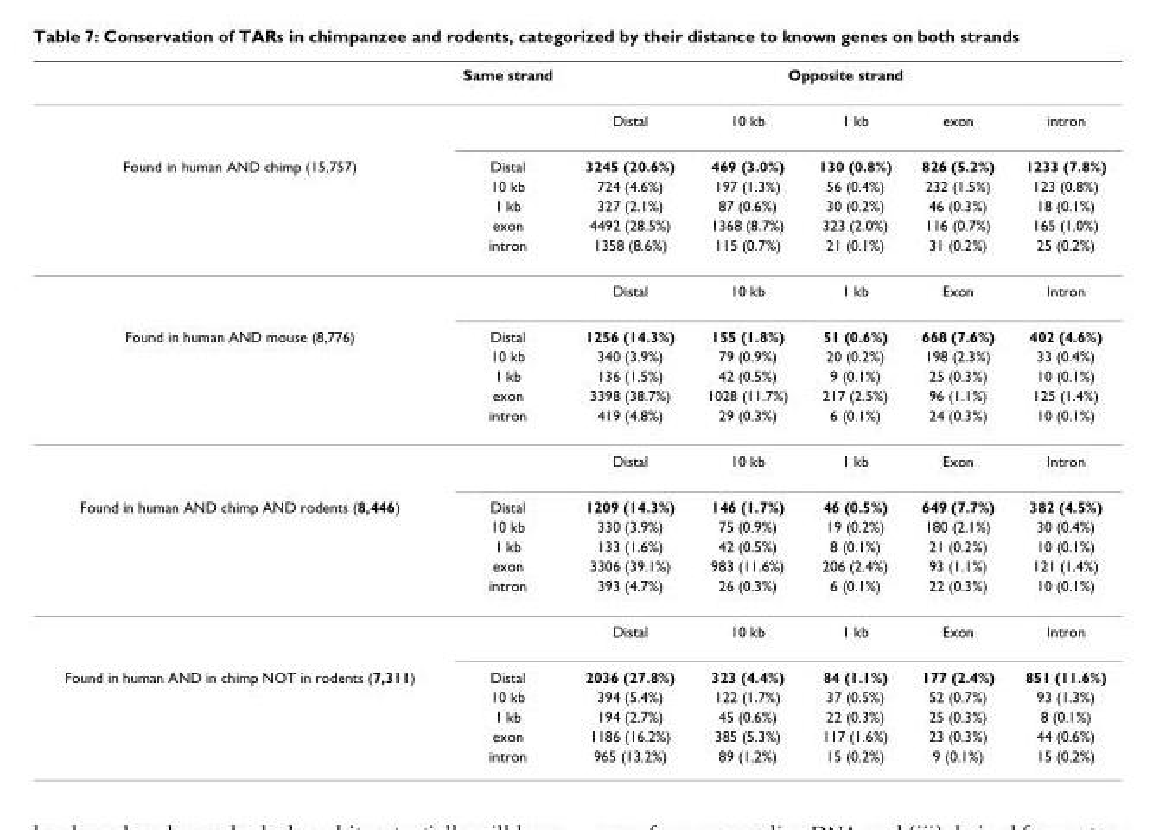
<table><thead><tr><td rowspan="2"></td><td rowspan="2">Same strand</td><td colspan="5">Opposite strand</td></tr><tr><td>Distal</td><td>10 kb</td><td>1 kb</td><td>exon</td><td>intron</td></tr></thead><tbody><tr><td rowspan="6">Found in human AND chimp (15,757)</td><td>Distal</td><td>3245 (20.6%)</td><td>469 (3.0%)</td><td>130 (0.8%)</td><td>826 (5.2%)</td><td>1233 (7.8%)</td></tr><tr><td>10 kb</td><td>724 (4.6%)</td><td>197 (1.3%)</td><td>56 (0.4%)</td><td>232 (1.5%)</td><td>123 (0.8%)</td></tr><tr><td>1 kb</td><td>327 (2.1%)</td><td>87 (0.6%)</td><td>30 (0.2%)</td><td>46 (0.3%)</td><td>18 (0.1%)</td></tr><tr><td>exon</td><td>4492 (28.5%)</td><td>1368 (8.7%)</td><td>323 (2.0%)</td><td>116 (0.7%)</td><td>165 (1.0%)</td></tr><tr><td>intron</td><td>1358 (8.6%)</td><td>115 (0.7%)</td><td>21 (0.1%)</td><td>31 (0.2%)</td><td>25 (0.2%)</td></tr><tr><td></td><td>Distal</td><td>10 kb</td><td>1 kb</td><td>Exon</td><td>Intron</td></tr><tr><td rowspan="6">Found in human AND mouse (8,776)</td><td>Distal</td><td>1256 (14.3%)</td><td>155 (1.8%)</td><td>51 (0.6%)</td><td>668 (7.6%)</td><td>402 (4.6%)</td></tr><tr><td>10 kb</td><td>340 (3.9%)</td><td>79 (0.9%)</td><td>20 (0.2%)</td><td>198 (2.3%)</td><td>33 (0.4%)</td></tr><tr><td>1 kb</td><td>136 (1.5%)</td><td>42 (0.5%)</td><td>9 (0.1%)</td><td>25 (0.3%)</td><td>10 (0.1%)</td></tr><tr><td>exon</td><td>3398 (38.7%)</td><td>1028 (11.7%)</td><td>217 (2.5%)</td><td>96 (1.1%)</td><td>125 (1.4%)</td></tr><tr><td>intron</td><td>419 (4.8%)</td><td>29 (0.3%)</td><td>6 (0.1%)</td><td>24 (0.3%)</td><td>10 (0.1%)</td></tr><tr><td></td><td>Distal</td><td>10 kb</td><td>1 kb</td><td>Exon</td><td>Intron</td></tr><tr><td rowspan="6">Found in human AND chimp AND rodents (8,446)</td><td>Distal</td><td>1209 (14.3%)</td><td>146 (1.7%)</td><td>46 (0.5%)</td><td>649 (7.7%)</td><td>382 (4.5%)</td></tr><tr><td>10 kb</td><td>330 (3.9%)</td><td>75 (0.9%)</td><td>19 (0.2%)</td><td>180 (2.1%)</td><td>30 (0.4%)</td></tr><tr><td>1 kb</td><td>133 (1.6%)</td><td>42 (0.5%)</td><td>8 (0.1%)</td><td>21 (0.2%)</td><td>10 (0.1%)</td></tr><tr><td>exon</td><td>3306 (39.1%)</td><td>983 (11.6%)</td><td>206 (2.4%)</td><td>93 (1.1%)</td><td>121 (1.4%)</td></tr><tr><td>intron</td><td>393 (4.7%)</td><td>26 (0.3%)</td><td>6 (0.1%)</td><td>22 (0.3%)</td><td>10 (0.1%)</td></tr><tr><td></td><td>Distal</td><td>10 kb</td><td>1 kb</td><td>Exon</td><td>Intron</td></tr><tr><td rowspan="5">Found in human AND in chimp NOT in rodents (7,311)</td><td>Distal</td><td>2036 (27.8%)</td><td>323 (4.4%)</td><td>84 (1.1%)</td><td>177 (2.4%)</td><td>851 (11.6%)</td></tr><tr><td>10 kb</td><td>394 (5.4%)</td><td>122 (1.7%)</td><td>37 (0.5%)</td><td>52 (0.7%)</td><td>93 (1.3%)</td></tr><tr><td>1 kb</td><td>194 (2.7%)</td><td>45 (0.6%)</td><td>22 (0.3%)</td><td>25 (0.3%)</td><td>8 (0.1%)</td></tr><tr><td>exon</td><td>1186 (16.2%)</td><td>385 (5.3%)</td><td>117 (1.6%)</td><td>23 (0.3%)</td><td>44 (0.6%)</td></tr><tr><td>intron</td><td>965 (13.2%)</td><td>89 (1.2%)</td><td>15 (0.2%)</td><td>9 (0.1%)</td><td>15 (0.2%)</td></tr></tbody></table>